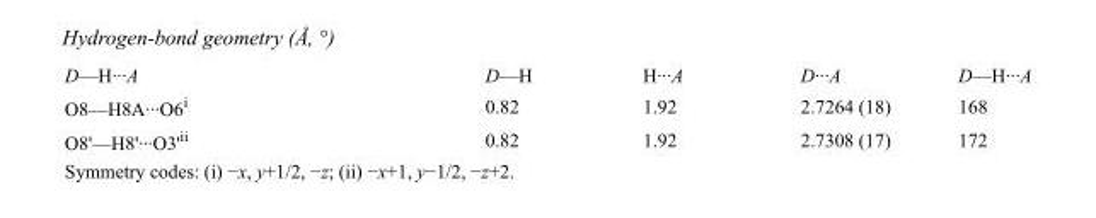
<table><tbody><tr><td>D—H···A</td><td>D—H</td><td>H···A</td><td>D···A</td><td>D—H···A</td></tr><tr><td>O8—H8A···O6<sup>i</sup></td><td>0.82</td><td>1.92</td><td>2.7264 (18)</td><td>168</td></tr><tr><td>O8&#x27;—H8&#x27;···O3&#x27;<sup>ii</sup></td><td>0.82</td><td>1.92</td><td>2.7308 (17)</td><td>172</td></tr></tbody></table>